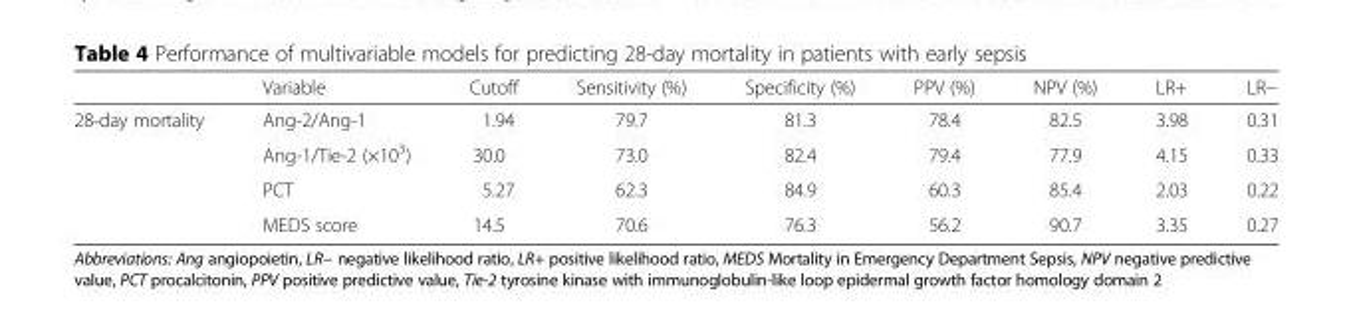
<table><thead><tr><td></td><td>Variable</td><td>Cutoff</td><td>Sensitivity (%)</td><td>Specificity (%)</td><td>PPV (%)</td><td>NPV (%)</td><td>LR+</td><td>LR−</td></tr></thead><tbody><tr><td rowspan="4">28-day mortality</td><td>Ang-2/Ang-1</td><td>1.94</td><td>79.7</td><td>81.3</td><td>78.4</td><td>82.5</td><td>3.98</td><td>0.31</td></tr><tr><td>Ang-1/Tie-2 (×10<sup>3</sup>)</td><td>30.0</td><td>73.0</td><td>82.4</td><td>79.4</td><td>77.9</td><td>4.15</td><td>0.33</td></tr><tr><td>PCT</td><td>5.27</td><td>62.3</td><td>84.9</td><td>60.3</td><td>85.4</td><td>2.03</td><td>0.22</td></tr><tr><td>MEDS score</td><td>14.5</td><td>70.6</td><td>76.3</td><td>56.2</td><td>90.7</td><td>3.35</td><td>0.27</td></tr></tbody></table>